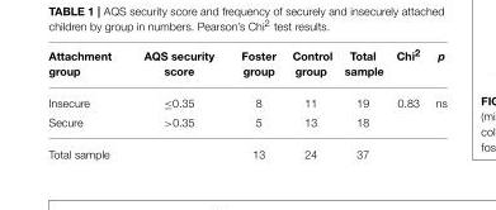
<table><thead><tr><td>Attachment group</td><td>AQS security score</td><td>Foster group</td><td>Control group</td><td>Total sample</td><td>Chi<sup>2</sup></td><td>p</td></tr></thead><tbody><tr><td>Insecure</td><td>≤0.35</td><td>8</td><td>11</td><td>19</td><td>0.83</td><td>ns</td></tr><tr><td>Secure</td><td>&gt;0.35</td><td>5</td><td>13</td><td>18</td><td></td><td></td></tr><tr><td>Total sample</td><td></td><td>13</td><td>24</td><td>37</td><td></td><td></td></tr></tbody></table>